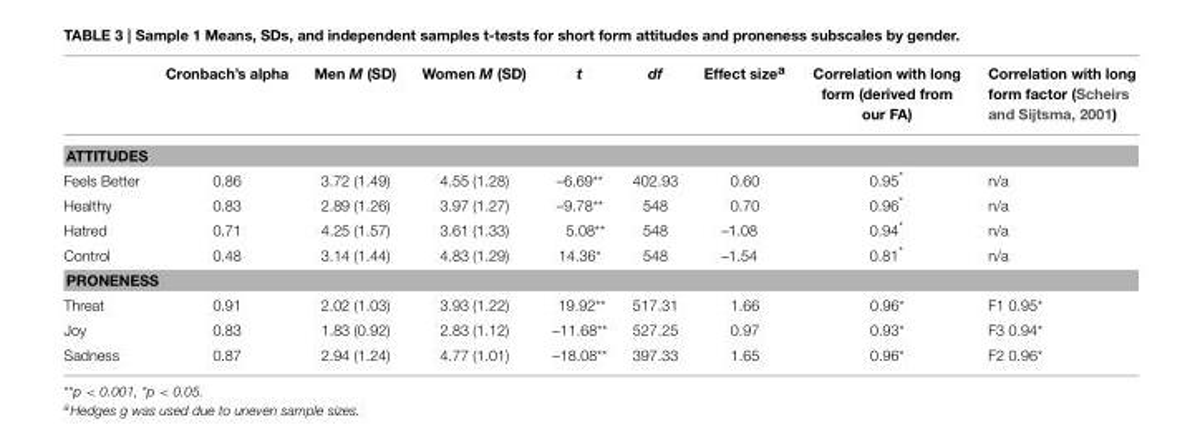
<table><thead><tr><td></td><td>Cronbach’s alpha</td><td>Men M (SD)</td><td>Women M (SD)</td><td>t</td><td>df</td><td>Effect size<sup>a</sup></td><td>Correlation with long form (derived from our FA)</td><td>Correlation with long form factor (Scheirs and Sijtsma, 2001)</td></tr></thead><tbody><tr><td colspan="9">ATTITUDES</td></tr><tr><td>Feels Better</td><td>0.86</td><td>3.72 (1.49)</td><td>4.55 (1.28)</td><td>–6.69**</td><td>402.93</td><td>0.60</td><td>0.95*</td><td>n/a</td></tr><tr><td>Healthy</td><td>0.83</td><td>2.89 (1.26)</td><td>3.97 (1.27)</td><td>–9.78**</td><td>548</td><td>0.70</td><td>0.96*</td><td>n/a</td></tr><tr><td>Hatred</td><td>0.71</td><td>4.25 (1.57)</td><td>3.61 (1.33)</td><td>5.08**</td><td>548</td><td>–1.08</td><td>0.94*</td><td>n/a</td></tr><tr><td>Control</td><td>0.48</td><td>3.14 (1.44)</td><td>4.83 (1.29)</td><td>14.36*</td><td>548</td><td>–1.54</td><td>0.81*</td><td>n/a</td></tr><tr><td colspan="9">PRONENESS</td></tr><tr><td>Threat</td><td>0.91</td><td>2.02 (1.03)</td><td>3.93 (1.22)</td><td>19.92**</td><td>517.31</td><td>1.66</td><td>0.96*</td><td>F1 0.95*</td></tr><tr><td>Joy</td><td>0.83</td><td>1.83 (0.92)</td><td>2.83 (1.12)</td><td>–11.68**</td><td>527.25</td><td>0.97</td><td>0.93*</td><td>F3 0.94*</td></tr><tr><td>Sadness</td><td>0.87</td><td>2.94 (1.24)</td><td>4.77 (1.01)</td><td>–18.08**</td><td>397.33</td><td>1.65</td><td>0.96*</td><td>F2 0.96*</td></tr></tbody></table>